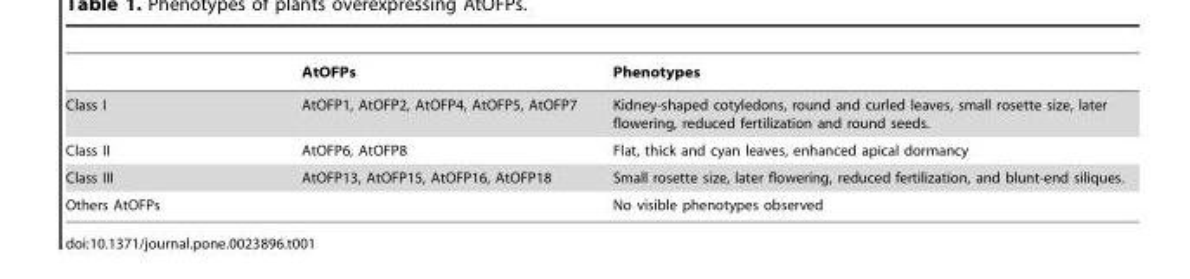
<table><thead><tr><td></td><td>AtOFPs</td><td>Phenotypes</td></tr></thead><tbody><tr><td>Class I</td><td>AtOFP1, AtOFP2, AtOFP4, AtOFP5, AtOFP7</td><td>Kidney-shaped cotyledons, round and curled leaves, small rosette size, later flowering, reduced fertilization and round seeds.</td></tr><tr><td>Class II</td><td>AtOFP6, AtOFP8</td><td>Flat, thick and cyan leaves, enhanced apical dormancy</td></tr><tr><td>Class III</td><td>AtOFP13, AtOFP15, AtOFP16, AtOFP18</td><td>Small rosette size, later flowering, reduced fertilization, and blunt-end siliques.</td></tr><tr><td>Others AtOFPs</td><td></td><td>No visible phenotypes observed</td></tr></tbody></table>